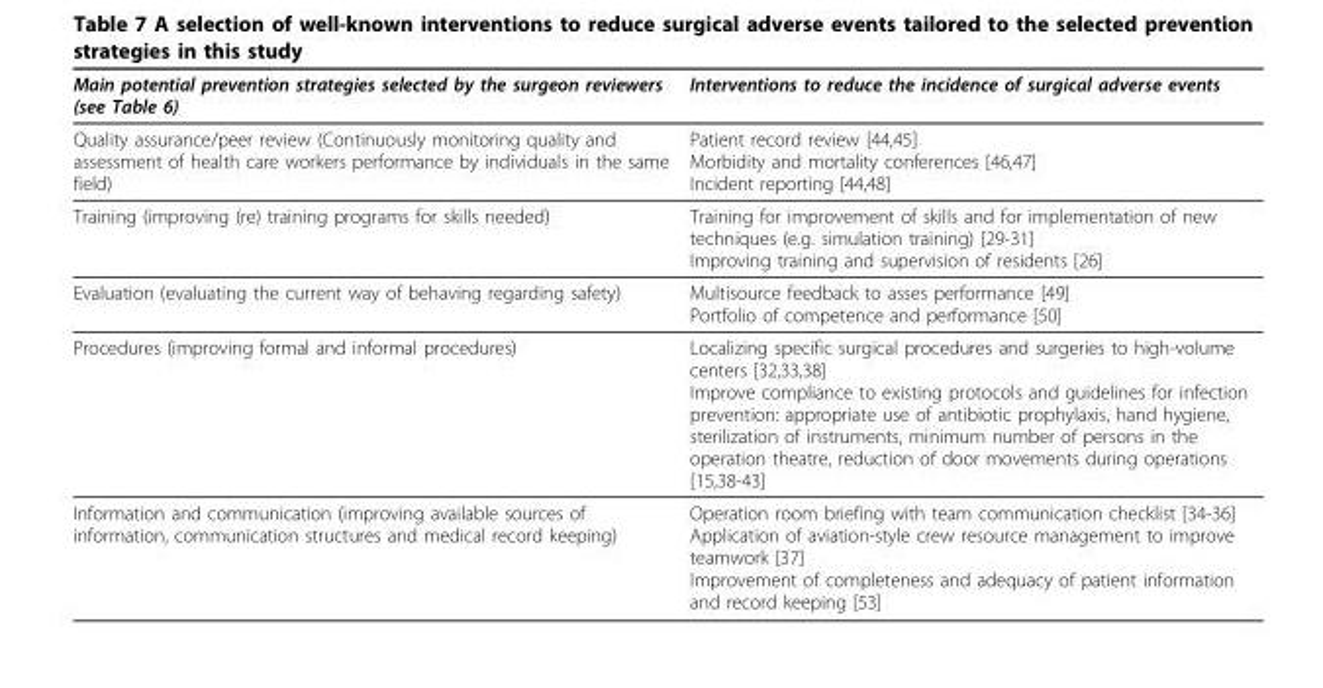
<table><thead><tr><td>Main potential prevention strategies selected by the surgeon reviewers (see Table 6)</td><td>Interventions to reduce the incidence of surgical adverse events</td></tr></thead><tbody><tr><td>Quality assurance/peer review (Continuously monitoring quality and assessment of health care workers performance by individuals in the same field)</td><td>Patient record review [44,45] Morbidity and mortality conferences [46,47] Incident reporting [44,48]</td></tr><tr><td>Training (improving (re) training programs for skills needed)</td><td>Training for improvement of skills and for implementation of new techniques (e.g. simulation training) [29-31] Improving training and supervision of residents [26]</td></tr><tr><td>Evaluation (evaluating the current way of behaving regarding safety)</td><td>Multisource feedback to asses performance [49] Portfolio of competence and performance [50]</td></tr><tr><td>Procedures (improving formal and informal procedures)</td><td>Localizing specific surgical procedures and surgeries to high-volume centers [32,33,38] Improve compliance to existing protocols and guidelines for infection prevention: appropriate use of antibiotic prophylaxis, hand hygiene, sterilization of instruments, minimum number of persons in the operation theatre, reduction of door movements during operations [15,38-43]</td></tr><tr><td>Information and communication (improving available sources of information, communication structures and medical record keeping)</td><td>Operation room briefing with team communication checklist [34-36] Application of aviation-style crew resource management to improve teamwork [37] Improvement of completeness and adequacy of patient information and record keeping [53]</td></tr></tbody></table>